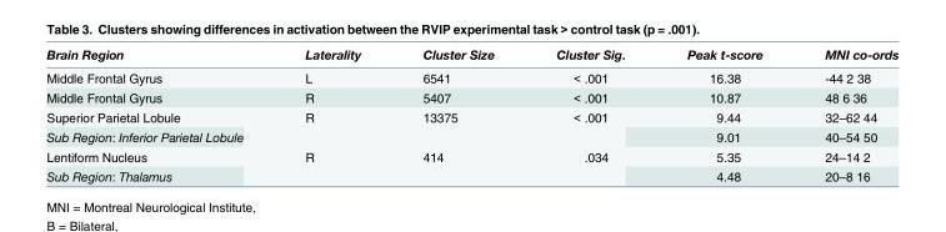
<table><thead><tr><td>Brain Region</td><td>Laterality</td><td>Cluster Size</td><td>Cluster Sig.</td><td>Peak t-score</td><td>MNI co-ords</td></tr></thead><tbody><tr><td>Middle Frontal Gyrus</td><td>L</td><td>6541</td><td>&lt; .001</td><td>16.38</td><td>-44 2 38</td></tr><tr><td>Middle Frontal Gyrus</td><td>R</td><td>5407</td><td>&lt; .001</td><td>10.87</td><td>48 6 36</td></tr><tr><td>Superior Parietal Lobule</td><td rowspan="2">R</td><td rowspan="2">13375</td><td rowspan="2">&lt; .001</td><td>9.44</td><td>32–62 44</td></tr><tr><td>Sub Region: Inferior Parietal Lobule</td><td>9.01</td><td>40–54 50</td></tr><tr><td>Lentiform Nucleus</td><td rowspan="2">R</td><td rowspan="2">414</td><td rowspan="2">.034</td><td>5.35</td><td>24–14 2</td></tr><tr><td>Sub Region: Thalamus</td><td>4.48</td><td>20–8 16</td></tr></tbody></table>